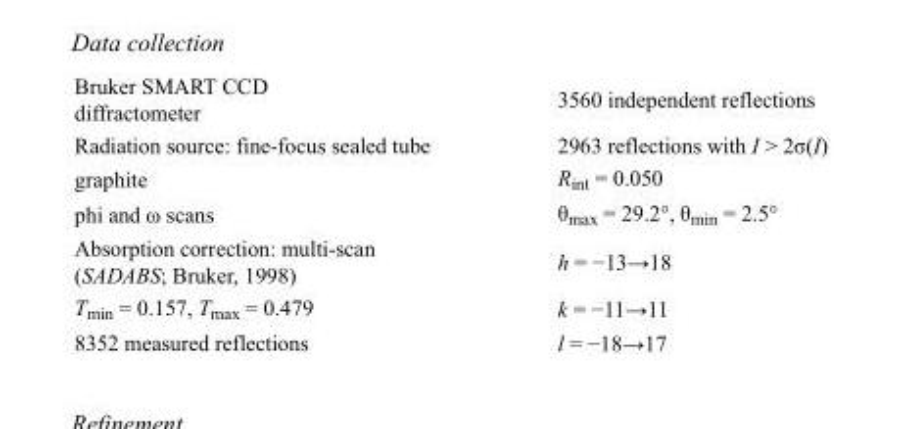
<table><tbody><tr><td>Bruker SMART CCD diffractometer</td><td>3560 independent reflections</td></tr><tr><td>Radiation source: fine-focus sealed tube</td><td>2963 reflections with I &gt; 2σ(I)</td></tr><tr><td>graphite</td><td>R<sub>int</sub> = 0.050</td></tr><tr><td>phi and ω scans</td><td>θ<sub>max</sub> = 29.2°, θ<sub>min</sub> = 2.5°</td></tr><tr><td>Absorption correction: multi-scan (SADABS; Bruker, 1998)</td><td>h = −13→18</td></tr><tr><td>T<sub>min</sub> = 0.157, T<sub>max</sub> = 0.479</td><td>k = −11→11</td></tr><tr><td>8352 measured reflections</td><td>l = −18→17</td></tr></tbody></table>